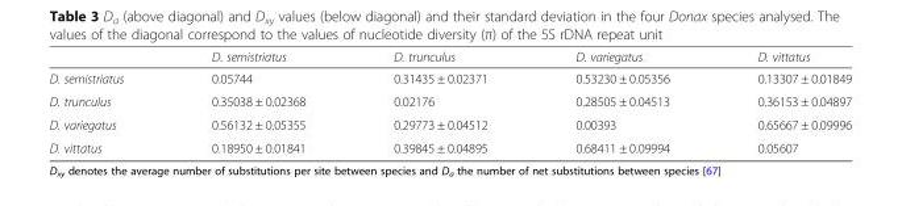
<table><thead><tr><td></td><td>D. semistriatus</td><td>D. trunculus</td><td>D. variegatus</td><td>D. vittatus</td></tr></thead><tbody><tr><td>D. semistriatus</td><td>0.05744</td><td>0.31435 ± 0.02371</td><td>0.53230 ± 0.05356</td><td>0.13307 ± 0.01849</td></tr><tr><td>D. trunculus</td><td>0.35038 ± 0.02368</td><td>0.02176</td><td>0.28505 ± 0.04513</td><td>0.36153 ± 0.04897</td></tr><tr><td>D. variegatus</td><td>0.56132 ± 0.05355</td><td>0.29773 ± 0.04512</td><td>0.00393</td><td>0.65667 ± 0.09996</td></tr><tr><td>D. vittatus</td><td>0.18950 ± 0.01841</td><td>0.39845 ± 0.04895</td><td>0.68411 ± 0.09994</td><td>0.05607</td></tr></tbody></table>